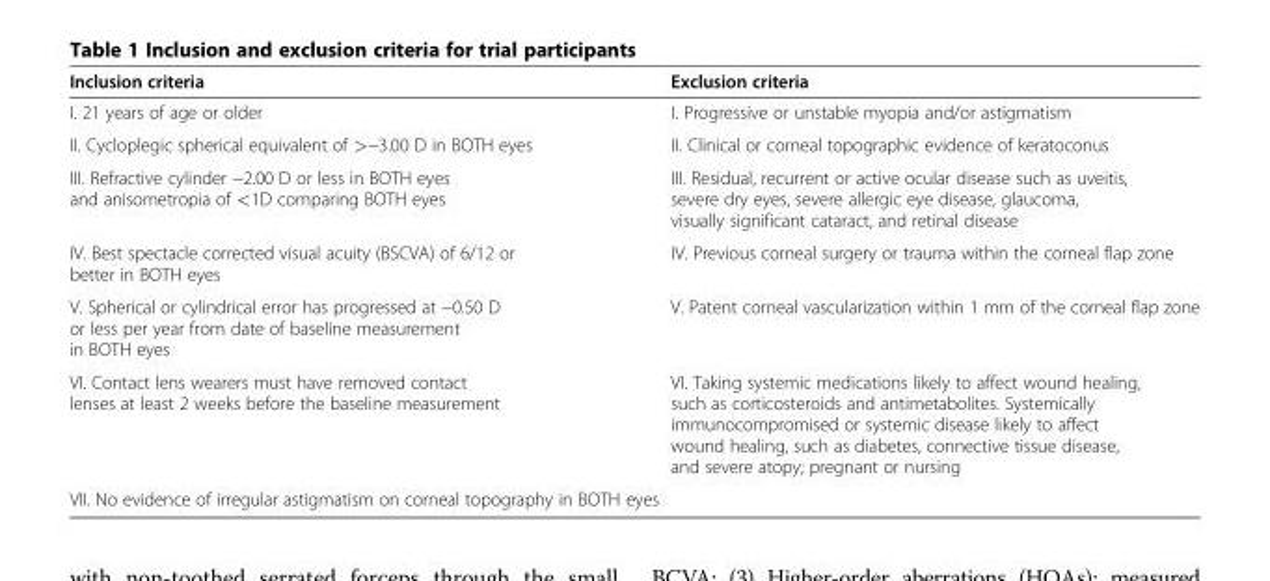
<table><thead><tr><td>Inclusion criteria</td><td>Exclusion criteria</td></tr></thead><tbody><tr><td>I. 21 years of age or older</td><td>I. Progressive or unstable myopia and/or astigmatism</td></tr><tr><td>II. Cycloplegic spherical equivalent of &gt;−3.00 D in BOTH eyes</td><td>II. Clinical or corneal topographic evidence of keratoconus</td></tr><tr><td>III. Refractive cylinder −2.00 D or less in BOTH eyes and anisometropia of &lt;1D comparing BOTH eyes</td><td>III. Residual, recurrent or active ocular disease such as uveitis, severe dry eyes, severe allergic eye disease, glaucoma, visually significant cataract, and retinal disease</td></tr><tr><td>IV. Best spectacle corrected visual acuity (BSCVA) of 6/12 or better in BOTH eyes</td><td>IV. Previous corneal surgery or trauma within the corneal flap zone</td></tr><tr><td>V. Spherical or cylindrical error has progressed at −0.50 D or less per year from date of baseline measurement in BOTH eyes</td><td>V. Patent corneal vascularization within 1 mm of the corneal flap zone</td></tr><tr><td>VI. Contact lens wearers must have removed contact lenses at least 2 weeks before the baseline measurement</td><td>VI. Taking systemic medications likely to affect wound healing, such as corticosteroids and antimetabolites. Systemically immunocompromised or systemic disease likely to affect wound healing, such as diabetes, connective tissue disease, and severe atopy; pregnant or nursing</td></tr><tr><td>VII. No evidence of irregular astigmatism on corneal topography in BOTH eyes</td><td></td></tr></tbody></table>